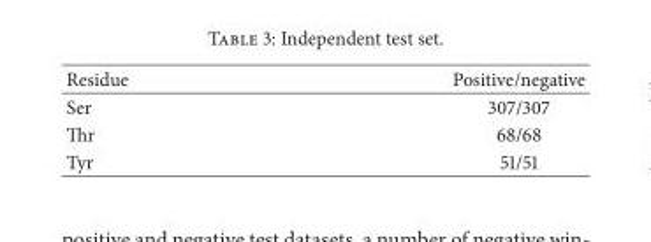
<table><thead><tr><td>Residue</td><td>Positive/negative</td></tr></thead><tbody><tr><td>Ser</td><td>307/307</td></tr><tr><td>Thr</td><td>68/68</td></tr><tr><td>Tyr</td><td>51/51</td></tr></tbody></table>